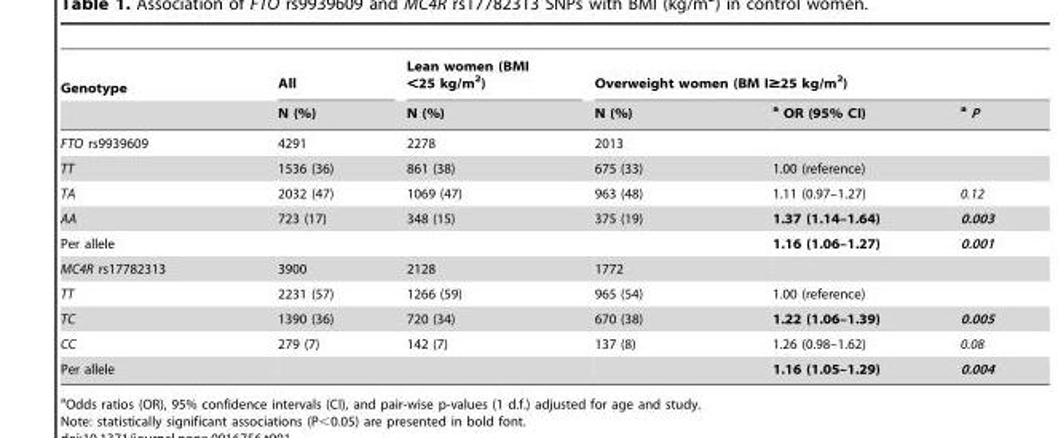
<table><thead><tr><td rowspan="2">Genotype</td><td rowspan="2">All N (%)</td><td rowspan="2">Lean women (BMI &lt;25 kg/m<sup>2</sup>) N (%)</td><td colspan="3">Overweight women (BM I≥25 kg/m<sup>2</sup>)</td></tr><tr><td>N (%)</td><td>a OR (95% CI)</td><td>a P</td></tr></thead><tbody><tr><td>FTO rs9939609</td><td>4291</td><td>2278</td><td>2013</td><td></td><td></td></tr><tr><td>TT</td><td>1536 (36)</td><td>861 (38)</td><td>675 (33)</td><td>1.00 (reference)</td><td></td></tr><tr><td>TA</td><td>2032 (47)</td><td>1069 (47)</td><td>963 (48)</td><td>1.11 (0.97–1.27)</td><td>0.12</td></tr><tr><td>AA</td><td>723 (17)</td><td>348 (15)</td><td>375 (19)</td><td>1.37 (1.14–1.64)</td><td>0.003</td></tr><tr><td>Per allele</td><td></td><td></td><td></td><td>1.16 (1.06–1.27)</td><td>0.001</td></tr><tr><td>MC4R rs17782313</td><td>3900</td><td>2128</td><td>1772</td><td></td><td></td></tr><tr><td>TT</td><td>2231 (57)</td><td>1266 (59)</td><td>965 (54)</td><td>1.00 (reference)</td><td></td></tr><tr><td>TC</td><td>1390 (36)</td><td>720 (34)</td><td>670 (38)</td><td>1.22 (1.06–1.39)</td><td>0.005</td></tr><tr><td>CC</td><td>279 (7)</td><td>142 (7)</td><td>137 (8)</td><td>1.26 (0.98–1.62)</td><td>0.08</td></tr><tr><td>Per allele</td><td></td><td></td><td></td><td>1.16 (1.05–1.29)</td><td>0.004</td></tr></tbody></table>